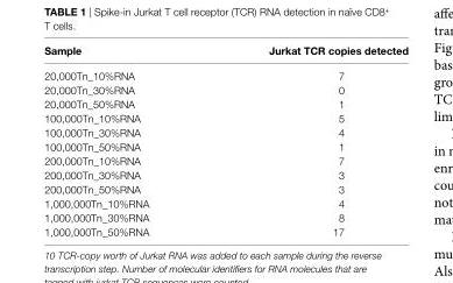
<table><thead><tr><td>sample</td><td>Jurkat tCR copies detected</td></tr></thead><tbody><tr><td>20,000Tn_10%RNA</td><td>7</td></tr><tr><td>20,000Tn_30%RNA</td><td>0</td></tr><tr><td>20,000Tn_50%RNA</td><td>1</td></tr><tr><td>100,000Tn_10%RNA</td><td>5</td></tr><tr><td>100,000Tn_30%RNA</td><td>4</td></tr><tr><td>100,000Tn_50%RNA</td><td>1</td></tr><tr><td>200,000Tn_10%RNA</td><td>7</td></tr><tr><td>200,000Tn_30%RNA</td><td>3</td></tr><tr><td>200,000Tn_50%RNA</td><td>3</td></tr><tr><td>1,000,000Tn_10%RNA</td><td>4</td></tr><tr><td>1,000,000Tn_30%RNA</td><td>8</td></tr><tr><td>1,000,000Tn_50%RNA</td><td>17</td></tr></tbody></table>